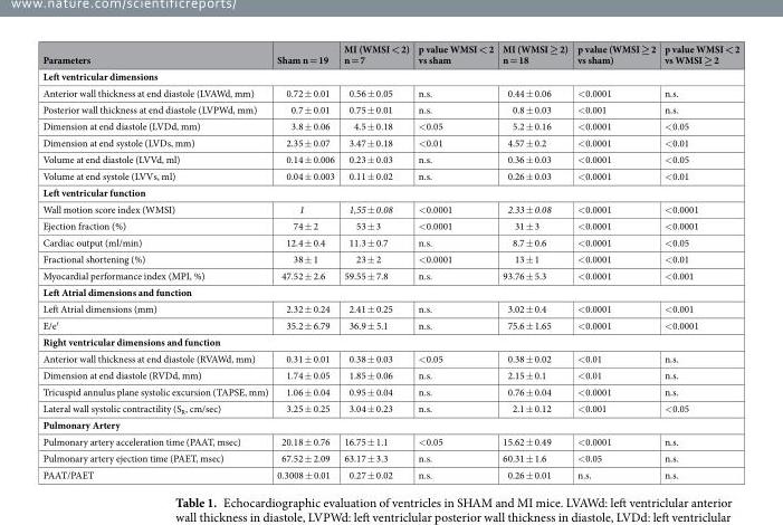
<table><thead><tr><td>Parameters</td><td>Sham n = 19</td><td>MI (WMSI &lt; 2) n = 7</td><td>p value WMSI &lt; 2 vs sham</td><td>MI (WMSI ≥ 2) n = 18</td><td>p value (WMSI ≥ 2 vs sham)</td><td>p value WMSI &lt; 2 vs WMSI ≥ 2</td></tr></thead><tbody><tr><td colspan="7">Left ventricular dimensions</td></tr><tr><td>Anterior wall thickness at end diastole (LVAWd, mm)</td><td>0.72 ± 0.01</td><td>0.56 ± 0.05</td><td>n.s.</td><td>0.44 ± 0.06</td><td>&lt;0.0001</td><td>n.s.</td></tr><tr><td>Posterior wall thickness at end diastole (LVPWd, mm)</td><td>0.7 ± 0.01</td><td>0.75 ± 0.01</td><td>n.s.</td><td>0.8 ± 0.03</td><td>&lt;0.001</td><td>n.s.</td></tr><tr><td>Dimension at end diastole (LVDd, mm)</td><td>3.8 ± 0.06</td><td>4.5 ± 0.18</td><td>&lt;0.05</td><td>5.2 ± 0.16</td><td>&lt;0.0001</td><td>&lt;0.05</td></tr><tr><td>Dimension at end systole (LVDs, mm)</td><td>2.35 ± 0.07</td><td>3.47 ± 0.18</td><td>&lt;0.01</td><td>4.57 ± 0.2</td><td>&lt;0.0001</td><td>&lt;0.01</td></tr><tr><td>Volume at end diastole (LVVd, ml)</td><td>0.14 ± 0.006</td><td>0.23 ± 0.03</td><td>n.s.</td><td>0.36 ± 0.03</td><td>&lt;0.0001</td><td>&lt;0.05</td></tr><tr><td>Volume at end systole (LVVs, ml)</td><td>0.04 ± 0.003</td><td>0.11 ± 0.02</td><td>n.s.</td><td>0.26 ± 0.03</td><td>&lt;0.0001</td><td>&lt;0.01</td></tr><tr><td colspan="7">Left ventricular function</td></tr><tr><td>Wall motion score index (WMSI)</td><td>1</td><td>1,55 ± 0.08</td><td>&lt;0.0001</td><td>2.33 ± 0.08</td><td>&lt;0.0001</td><td>&lt;0.0001</td></tr><tr><td>Ejection fraction (%)</td><td>74 ± 2</td><td>53 ± 3</td><td>&lt;0.0001</td><td>31 ± 3</td><td>&lt;0.0001</td><td>&lt;0.0001</td></tr><tr><td>Cardiac output (ml/min)</td><td>12.4 ± 0.4</td><td>11.3 ± 0.7</td><td>n.s.</td><td>8.7 ± 0.6</td><td>&lt;0.0001</td><td>&lt;0.05</td></tr><tr><td>Fractional shortening (%)</td><td>38 ± 1</td><td>23 ± 2</td><td>&lt;0.0001</td><td>13 ± 1</td><td>&lt;0.0001</td><td>&lt;0.01</td></tr><tr><td>Myocardial performance index (MPI, %)</td><td>47.52 ± 2.6</td><td>59.55 ± 7.8</td><td>n.s.</td><td>93.76 ± 5.3</td><td>&lt;0.0001</td><td>&lt;0.001</td></tr><tr><td colspan="7">Left Atrial dimensions and function</td></tr><tr><td>Left Atrial dimensions (mm)</td><td>2.32 ± 0.24</td><td>2.41 ± 0.25</td><td>n.s.</td><td>3.02 ± 0.4</td><td>&lt;0.0001</td><td>&lt;0.001</td></tr><tr><td>E/e′</td><td>35.2 ± 6.79</td><td>36.9 ± 5.1</td><td>n.s.</td><td>75.6 ± 1.65</td><td>&lt;0.0001</td><td>&lt;0.0001</td></tr><tr><td colspan="7">Right ventricular dimensions and function</td></tr><tr><td>Anterior wall thickness at end diastole (RVAWd, mm)</td><td>0.31 ± 0.01</td><td>0.38 ± 0.03</td><td>&lt;0.05</td><td>0.38 ± 0.02</td><td>&lt;0.01</td><td>n.s.</td></tr><tr><td>Dimension at end diastole (RVDd, mm)</td><td>1.74 ± 0.05</td><td>1.85 ± 0.06</td><td>n.s.</td><td>2.15 ± 0.1</td><td>&lt;0.01</td><td>n.s.</td></tr><tr><td>Tricuspid annulus plane systolic excursion (TAPSE, mm)</td><td>1.06 ± 0.04</td><td>0.95 ± 0.04</td><td>n.s.</td><td>0.76 ± 0.04</td><td>&lt;0.0001</td><td>n.s.</td></tr><tr><td>Lateral wall systolic contractility (S<sub>R</sub>, cm/sec)</td><td>3.25 ± 0.25</td><td>3.04 ± 0.23</td><td>n.s.</td><td>2.1 ± 0.12</td><td>&lt;0.001</td><td>&lt;0.05</td></tr><tr><td colspan="7">Pulmonary Artery</td></tr><tr><td>Pulmonary artery acceleration time (PAAT, msec)</td><td>20.18 ± 0.76</td><td>16.75 ± 1.1</td><td>&lt;0.05</td><td>15.62 ± 0.49</td><td>&lt;0.0001</td><td>n.s.</td></tr><tr><td>Pulmonary artery ejection time (PAET, msec)</td><td>67.52 ± 2.09</td><td>63.17 ± 3.3</td><td>n.s.</td><td>60.31 ± 1.6</td><td>&lt;0.05</td><td>n.s.</td></tr><tr><td>PAAT/PAET</td><td>0.3008 ± 0.01</td><td>0.27 ± 0.02</td><td>n.s.</td><td>0.26 ± 0.01</td><td>n.s.</td><td>n.s.</td></tr></tbody></table>